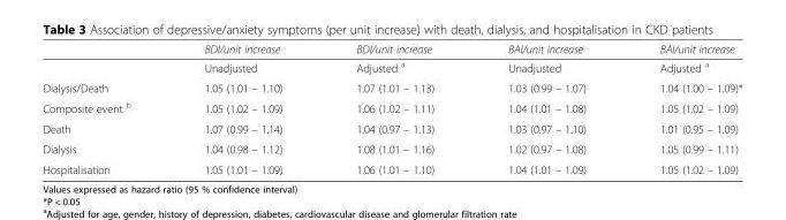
<table><thead><tr><td></td><td>BDI/unit increase</td><td>BDI/unit increase</td><td>BAI/unit increase</td><td>BAI/unit increase</td></tr></thead><tbody><tr><td></td><td>Unadjusted</td><td>Adjusted <sup>a</sup></td><td>Unadjusted</td><td>Adjusted <sup>a</sup></td></tr><tr><td>Dialysis/Death</td><td>1.05 (1.01 – 1.10)</td><td>1.07 (1.01 – 1.13)</td><td>1.03 (0.99 – 1.07)</td><td>1.04 (1.00 – 1.09)*</td></tr><tr><td>Composite event <sup>b</sup></td><td>1.05 (1.02 – 1.09)</td><td>1.06 (1.02 – 1.11)</td><td>1.04 (1.01 – 1.08)</td><td>1.05 (1.02 – 1.09)</td></tr><tr><td>Death</td><td>1.07 (0.99 – 1.14)</td><td>1.04 (0.97 – 1.13)</td><td>1.03 (0.97 – 1.10)</td><td>1.01 (0.95 – 1.09)</td></tr><tr><td>Dialysis</td><td>1.04 (0.98 – 1.12)</td><td>1.08 (1.01 – 1.16)</td><td>1.02 (0.97 – 1.08)</td><td>1.05 (0.99 – 1.11)</td></tr><tr><td>Hospitalisation</td><td>1.05 (1.01 – 1.09)</td><td>1.06 (1.01 – 1.10)</td><td>1.04 (1.01 – 1.09)</td><td>1.05 (1.02 – 1.09)</td></tr></tbody></table>